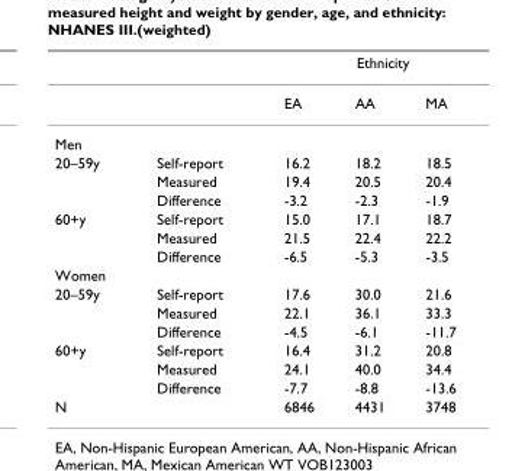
<table><thead><tr><td rowspan="2"></td><td rowspan="2"></td><td colspan="3">Ethnicity</td></tr><tr><td>EA</td><td>AA</td><td>MA</td></tr></thead><tbody><tr><td colspan="5">Men</td></tr><tr><td rowspan="3">20–59y</td><td>Self-report</td><td>16.2</td><td>18.2</td><td>18.5</td></tr><tr><td>Measured</td><td>19.4</td><td>20.5</td><td>20.4</td></tr><tr><td>Difference</td><td>-3.2</td><td>-2.3</td><td>-1.9</td></tr><tr><td rowspan="3">60+y</td><td>Self-report</td><td>15.0</td><td>17.1</td><td>18.7</td></tr><tr><td>Measured</td><td>21.5</td><td>22.4</td><td>22.2</td></tr><tr><td>Difference</td><td>-6.5</td><td>-5.3</td><td>-3.5</td></tr><tr><td colspan="5">Women</td></tr><tr><td rowspan="3">20–59y</td><td>Self-report</td><td>17.6</td><td>30.0</td><td>21.6</td></tr><tr><td>Measured</td><td>22.1</td><td>36.1</td><td>33.3</td></tr><tr><td>Difference</td><td>-4.5</td><td>-6.1</td><td>-11.7</td></tr><tr><td rowspan="3">60+y</td><td>Self-report</td><td>16.4</td><td>31.2</td><td>20.8</td></tr><tr><td>Measured</td><td>24.1</td><td>40.0</td><td>34.4</td></tr><tr><td>Difference</td><td>-7.7</td><td>-8.8</td><td>-13.6</td></tr><tr><td>N</td><td></td><td>6846</td><td>4431</td><td>3748</td></tr></tbody></table>